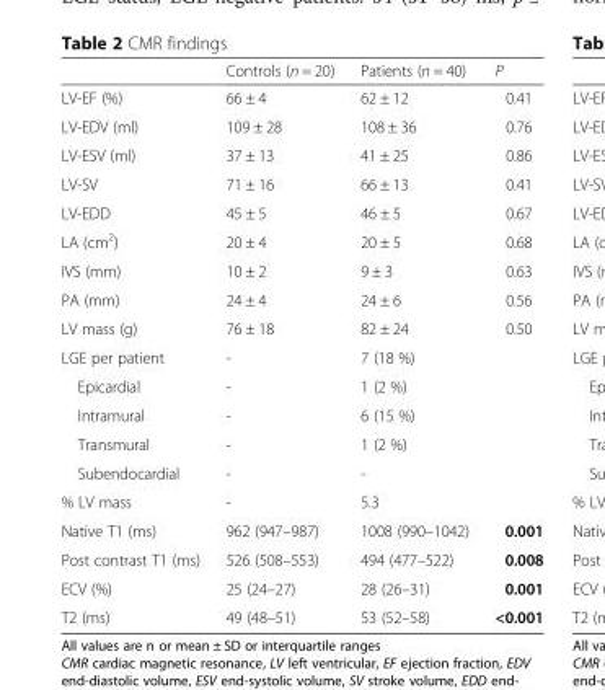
<table><thead><tr><td></td><td>Controls (n = 20)</td><td>Patients (n = 40)</td><td>P</td></tr></thead><tbody><tr><td>LV-EF (%)</td><td>66 ± 4</td><td>62 ± 12</td><td>0.41</td></tr><tr><td>LV-EDV (ml)</td><td>109 ± 28</td><td>108 ± 36</td><td>0.76</td></tr><tr><td>LV-ESV (ml)</td><td>37 ± 13</td><td>41 ± 25</td><td>0.86</td></tr><tr><td>LV-SV</td><td>71 ± 16</td><td>66 ± 13</td><td>0.41</td></tr><tr><td>LV-EDD</td><td>45 ± 5</td><td>46 ± 5</td><td>0.67</td></tr><tr><td>LA (cm<sup>2</sup>)</td><td>20 ± 4</td><td>20 ± 5</td><td>0.68</td></tr><tr><td>IVS (mm)</td><td>10 ± 2</td><td>9 ± 3</td><td>0.63</td></tr><tr><td>PA (mm)</td><td>24 ± 4</td><td>24 ± 6</td><td>0.56</td></tr><tr><td>LV mass (g)</td><td>76 ± 18</td><td>82 ± 24</td><td>0.50</td></tr><tr><td>LGE per patient</td><td>-</td><td>7 (18 %)</td><td></td></tr><tr><td>Epicardial</td><td>-</td><td>1 (2 %)</td><td></td></tr><tr><td>Intramural</td><td>-</td><td>6 (15 %)</td><td></td></tr><tr><td>Transmural</td><td>-</td><td>1 (2 %)</td><td></td></tr><tr><td>Subendocardial</td><td>-</td><td>-</td><td></td></tr><tr><td>% LV mass</td><td>-</td><td>5.3</td><td></td></tr><tr><td>Native T1 (ms)</td><td>962 (947–987)</td><td>1008 (990–1042)</td><td>0.001</td></tr><tr><td>Post contrast T1 (ms)</td><td>526 (508–553)</td><td>494 (477–522)</td><td>0.008</td></tr><tr><td>ECV (%)</td><td>25 (24–27)</td><td>28 (26–31)</td><td>0.001</td></tr><tr><td>T2 (ms)</td><td>49 (48–51)</td><td>53 (52–58)</td><td>&lt;0.001</td></tr></tbody></table>